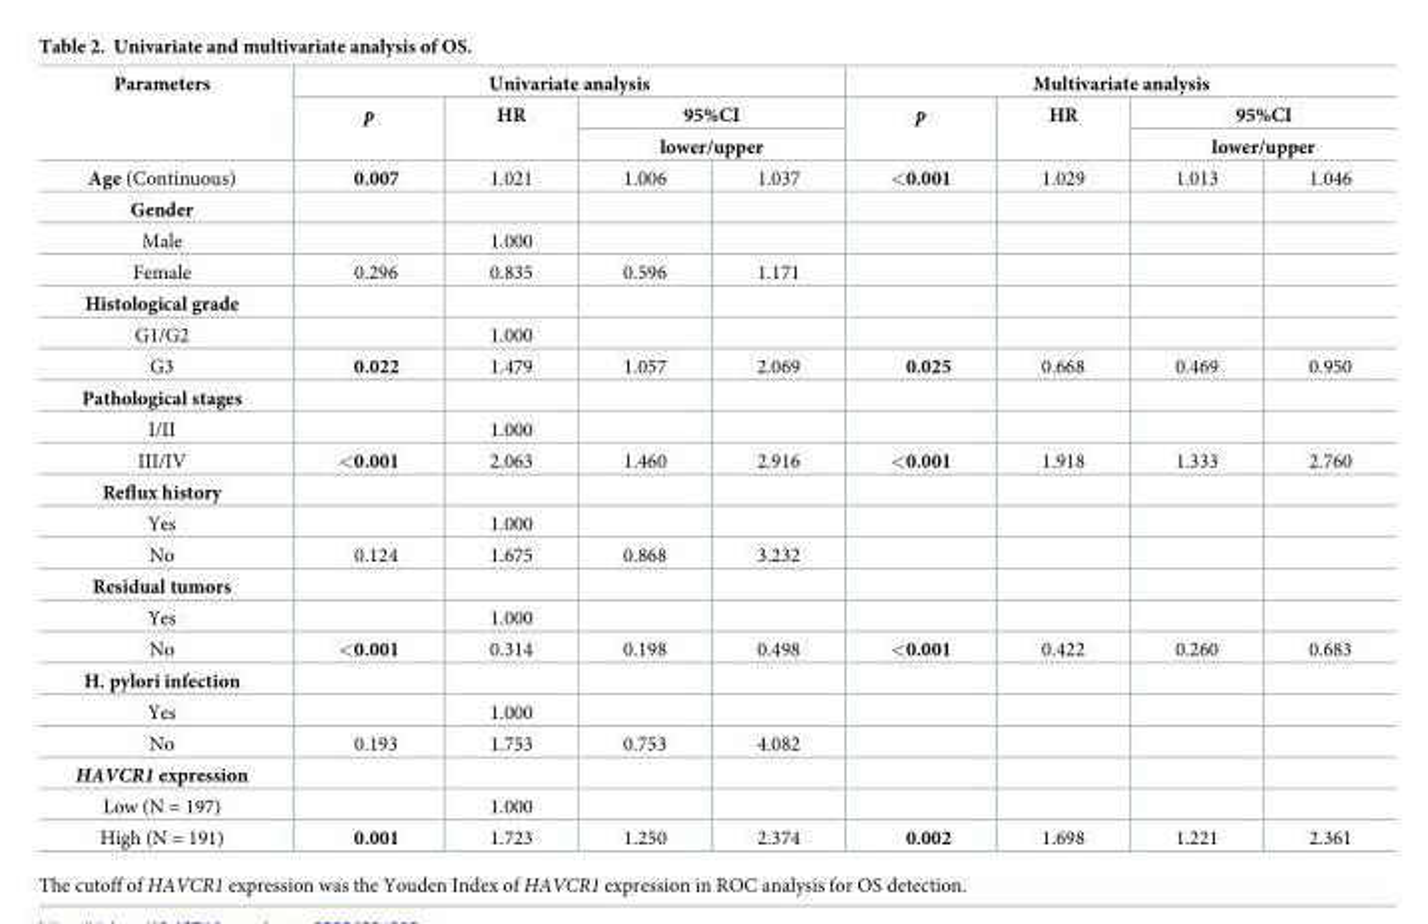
<table><thead><tr><td rowspan="4">Parameters Age (Continuous)</td><td colspan="4">Univariate analysis</td><td colspan="4">Multivariate analysis</td></tr><tr><td rowspan="3">p 0.007</td><td rowspan="3">HR 1.021</td><td rowspan="2" colspan="2">95%CI lower/upper</td><td rowspan="3">p &lt;0.001</td><td rowspan="3">HR 1.029</td><td rowspan="2" colspan="2">95%CI lower/upper</td></tr><tr></tr><tr><td>1.006</td><td>1.037</td><td>1.013</td><td>1.046</td></tr></thead><tbody><tr><td colspan="9">Gender</td></tr><tr><td>Male</td><td></td><td>1.000</td><td></td><td></td><td></td><td></td><td></td><td></td></tr><tr><td>Female</td><td>0.296</td><td>0.835</td><td>0.596</td><td>1.171</td><td></td><td></td><td></td><td></td></tr><tr><td colspan="9">Histological grade</td></tr><tr><td>G1/G2</td><td></td><td>1.000</td><td></td><td></td><td></td><td></td><td></td><td></td></tr><tr><td>G3</td><td>0.022</td><td>1.479</td><td>1.057</td><td>2.069</td><td>0.025</td><td>0.668</td><td>0.469</td><td>0.950</td></tr><tr><td colspan="9">Pathological stages</td></tr><tr><td>I/II</td><td></td><td>1.000</td><td></td><td></td><td></td><td></td><td></td><td></td></tr><tr><td>III/IV</td><td>&lt;0.001</td><td>2.063</td><td>1.460</td><td>2.916</td><td>&lt;0.001</td><td>1.918</td><td>1.333</td><td>2.760</td></tr><tr><td colspan="9">Reflux history</td></tr><tr><td>Yes</td><td></td><td>1.000</td><td></td><td></td><td></td><td></td><td></td><td></td></tr><tr><td>No</td><td>0.124</td><td>1.675</td><td>0.868</td><td>3.232</td><td></td><td></td><td></td><td></td></tr><tr><td colspan="9">Residual tumors</td></tr><tr><td>Yes</td><td></td><td>1.000</td><td></td><td></td><td></td><td></td><td></td><td></td></tr><tr><td>No</td><td>&lt;0.001</td><td>0.314</td><td>0.198</td><td>0.498</td><td>&lt;0.001</td><td>0.422</td><td>0.260</td><td>0.683</td></tr><tr><td colspan="9">H. pylori infection</td></tr><tr><td>Yes</td><td></td><td>1.000</td><td></td><td></td><td></td><td></td><td></td><td></td></tr><tr><td>No</td><td>0.193</td><td>1.753</td><td>0.753</td><td>4.082</td><td></td><td></td><td></td><td></td></tr><tr><td colspan="9">HAVCR1 expression</td></tr><tr><td>Low (N = 197)</td><td></td><td>1.000</td><td></td><td></td><td></td><td></td><td></td><td></td></tr><tr><td>High (N = 191)</td><td>0.001</td><td>1.723</td><td>1.250</td><td>2.374</td><td>0.002</td><td>1.698</td><td>1.221</td><td>2.361</td></tr></tbody></table>